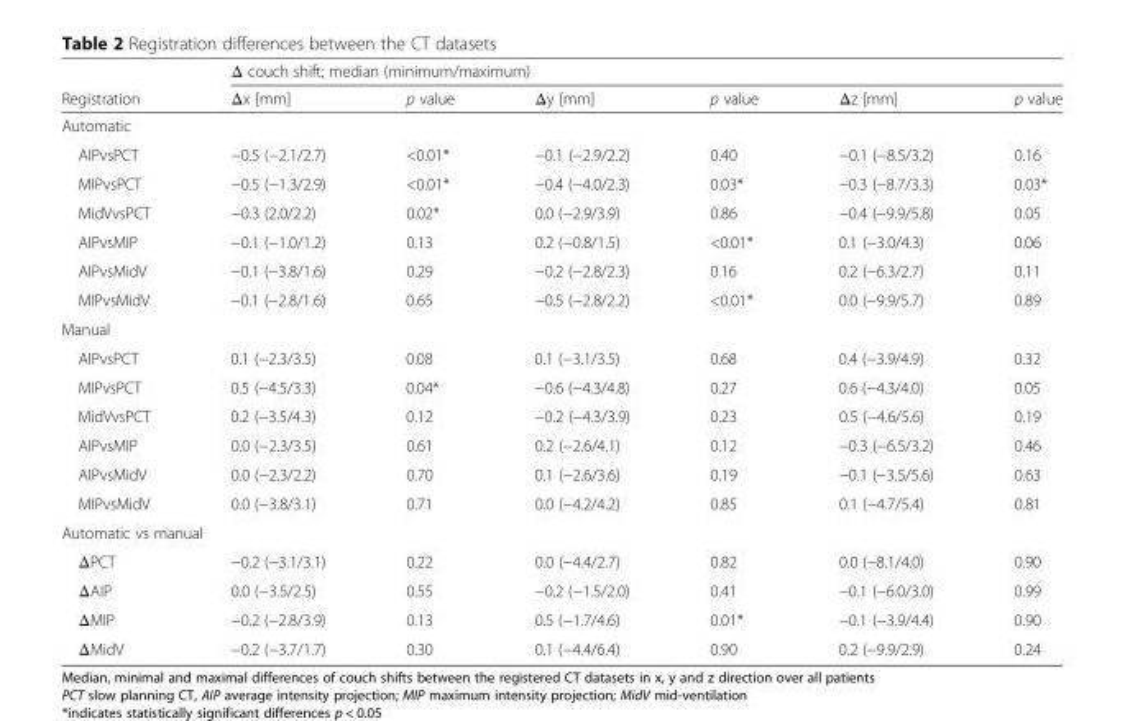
<table><thead><tr><td rowspan="2">Registration</td><td colspan="6">Δ couch shift; median (minimum/maximum)</td></tr><tr><td>Δx [mm]</td><td>p value</td><td>Δy [mm]</td><td>p value</td><td>Δz [mm]</td><td>p value</td></tr></thead><tbody><tr><td colspan="7">Automatic</td></tr><tr><td>AIPvsPCT</td><td>−0.5 (−2.1/2.7)</td><td>&lt;0.01*</td><td>−0.1 (−2.9/2.2)</td><td>0.40</td><td>−0.1 (−8.5/3.2)</td><td>0.16</td></tr><tr><td>MIPvsPCT</td><td>−0.5 (−1.3/2.9)</td><td>&lt;0.01*</td><td>−0.4 (−4.0/2.3)</td><td>0.03*</td><td>−0.3 (−8.7/3.3)</td><td>0.03*</td></tr><tr><td>MidVvsPCT</td><td>−0.3 (2.0/2.2)</td><td>0.02*</td><td>0.0 (−2.9/3.9)</td><td>0.86</td><td>−0.4 (−9.9/5.8)</td><td>0.05</td></tr><tr><td>AIPvsMIP</td><td>−0.1 (−1.0/1.2)</td><td>0.13</td><td>0.2 (−0.8/1.5)</td><td>&lt;0.01*</td><td>0.1 (−3.0/4.3)</td><td>0.06</td></tr><tr><td>AIPvsMidV</td><td>−0.1 (−3.8/1.6)</td><td>0.29</td><td>−0.2 (−2.8/2.3)</td><td>0.16</td><td>0.2 (−6.3/2.7)</td><td>0.11</td></tr><tr><td>MIPvsMidV</td><td>−0.1 (−2.8/1.6)</td><td>0.65</td><td>−0.5 (−2.8/2.2)</td><td>&lt;0.01*</td><td>0.0 (−9.9/5.7)</td><td>0.89</td></tr><tr><td colspan="7">Manual</td></tr><tr><td>AIPvsPCT</td><td>0.1 (−2.3/3.5)</td><td>0.08</td><td>0.1 (−3.1/3.5)</td><td>0.68</td><td>0.4 (−3.9/4.9)</td><td>0.32</td></tr><tr><td>MIPvsPCT</td><td>0.5 (−4.5/3.3)</td><td>0.04*</td><td>−0.6 (−4.3/4.8)</td><td>0.27</td><td>0.6 (−4.3/4.0)</td><td>0.05</td></tr><tr><td>MidVvsPCT</td><td>0.2 (−3.5/4.3)</td><td>0.12</td><td>−0.2 (−4.3/3.9)</td><td>0.23</td><td>0.5 (−4.6/5.6)</td><td>0.19</td></tr><tr><td>AIPvsMIP</td><td>0.0 (−2.3/3.5)</td><td>0.61</td><td>0.2 (−2.6/4.1)</td><td>0.12</td><td>−0.3 (−6.5/3.2)</td><td>0.46</td></tr><tr><td>AIPvsMidV</td><td>0.0 (−2.3/2.2)</td><td>0.70</td><td>0.1 (−2.6/3.6)</td><td>0.19</td><td>−0.1 (−3.5/5.6)</td><td>0.63</td></tr><tr><td>MIPvsMidV</td><td>0.0 (−3.8/3.1)</td><td>0.71</td><td>0.0 (−4.2/4.2)</td><td>0.85</td><td>0.1 (−4.7/5.4)</td><td>0.81</td></tr><tr><td colspan="7">Automatic vs manual</td></tr><tr><td>ΔPCT</td><td>−0.2 (−3.1/3.1)</td><td>0.22</td><td>0.0 (−4.4/2.7)</td><td>0.82</td><td>0.0 (−8.1/4.0)</td><td>0.90</td></tr><tr><td>ΔAIP</td><td>0.0 (−3.5/2.5)</td><td>0.55</td><td>−0.2 (−1.5/2.0)</td><td>0.41</td><td>−0.1 (−6.0/3.0)</td><td>0.99</td></tr><tr><td>ΔMIP</td><td>−0.2 (−2.8/3.9)</td><td>0.13</td><td>0.5 (−1.7/4.6)</td><td>0.01*</td><td>−0.1 (−3.9/4.4)</td><td>0.90</td></tr><tr><td>ΔMidV</td><td>−0.2 (−3.7/1.7)</td><td>0.30</td><td>0.1 (−4.4/6.4)</td><td>0.90</td><td>0.2 (−9.9/2.9)</td><td>0.24</td></tr></tbody></table>